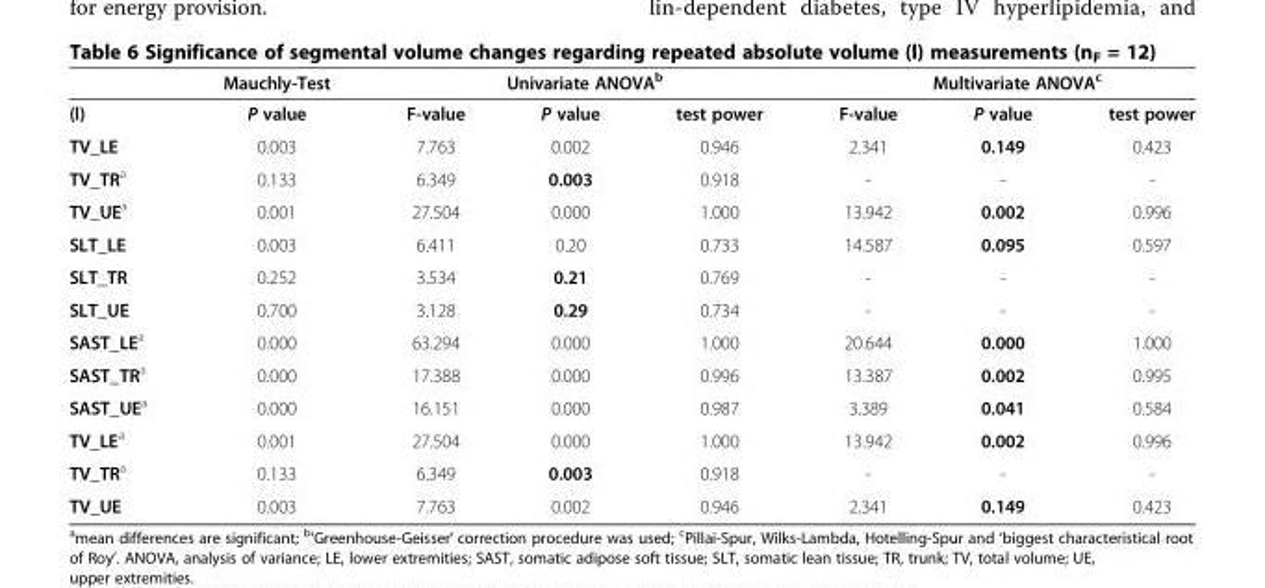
<table><thead><tr><td rowspan="2">(l)</td><td rowspan="2">Mauchly-Test P value</td><td colspan="3">Univariate ANOVA<sup>b</sup></td><td colspan="3">Multivariate ANOVA<sup>c</sup></td></tr><tr><td>F-value</td><td>P value</td><td>test power</td><td>F-value</td><td>P value</td><td>test power</td></tr></thead><tbody><tr><td>TV_LE</td><td>0.003</td><td>7.763</td><td>0.002</td><td>0.946</td><td>2.341</td><td>0.149</td><td>0.423</td></tr><tr><td>TV_TR<sup>a</sup></td><td>0.133</td><td>6.349</td><td>0.003</td><td>0.918</td><td>-</td><td>-</td><td>-</td></tr><tr><td>TV_UE<sup>a</sup></td><td>0.001</td><td>27.504</td><td>0.000</td><td>1.000</td><td>13.942</td><td>0.002</td><td>0.996</td></tr><tr><td>SLT_LE</td><td>0.003</td><td>6.411</td><td>0.20</td><td>0.733</td><td>14.587</td><td>0.095</td><td>0.597</td></tr><tr><td>SLT_TR</td><td>0.252</td><td>3.534</td><td>0.21</td><td>0.769</td><td>-</td><td>-</td><td>-</td></tr><tr><td>SLT_UE</td><td>0.700</td><td>3.128</td><td>0.29</td><td>0.734</td><td>-</td><td>-</td><td>-</td></tr><tr><td>SAST_LE<sup>a</sup></td><td>0.000</td><td>63.294</td><td>0.000</td><td>1.000</td><td>20.644</td><td>0.000</td><td>1.000</td></tr><tr><td>SAST_TR<sup>a</sup></td><td>0.000</td><td>17.388</td><td>0.000</td><td>0.996</td><td>13.387</td><td>0.002</td><td>0.995</td></tr><tr><td>SAST_UE<sup>a</sup></td><td>0.000</td><td>16.151</td><td>0.000</td><td>0.987</td><td>3.389</td><td>0.041</td><td>0.584</td></tr><tr><td>TV_LE<sup>a</sup></td><td>0.001</td><td>27.504</td><td>0.000</td><td>1.000</td><td>13.942</td><td>0.002</td><td>0.996</td></tr><tr><td>TV_TR<sup>a</sup></td><td>0.133</td><td>6.349</td><td>0.003</td><td>0.918</td><td>-</td><td>-</td><td>-</td></tr><tr><td>TV_UE</td><td>0.003</td><td>7.763</td><td>0.002</td><td>0.946</td><td>2.341</td><td>0.149</td><td>0.423</td></tr></tbody></table>